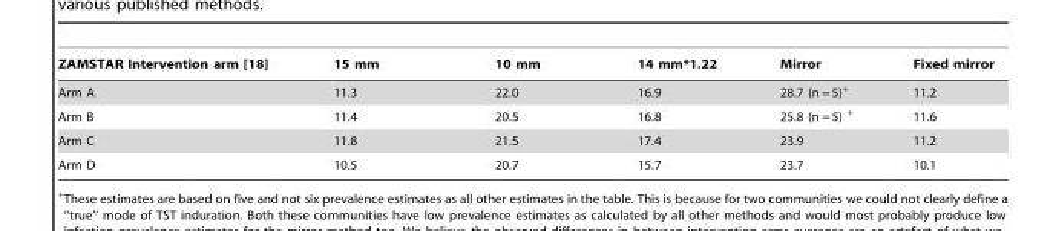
<table><thead><tr><td>ZAMSTAR Intervention arm [18]</td><td>15 mm</td><td>10 mm</td><td>14 mm*1.22</td><td>Mirror</td><td>Fixed mirror</td></tr></thead><tbody><tr><td>Arm A</td><td>11.3</td><td>22.0</td><td>16.9</td><td>28.7 (n = 5)+</td><td>11.2</td></tr><tr><td>Arm B</td><td>11.4</td><td>20.5</td><td>16.8</td><td>25.8 (n = 5) +</td><td>11.6</td></tr><tr><td>Arm C</td><td>11.8</td><td>21.5</td><td>17.4</td><td>23.9</td><td>11.2</td></tr><tr><td>Arm D</td><td>10.5</td><td>20.7</td><td>15.7</td><td>23.7</td><td>10.1</td></tr></tbody></table>